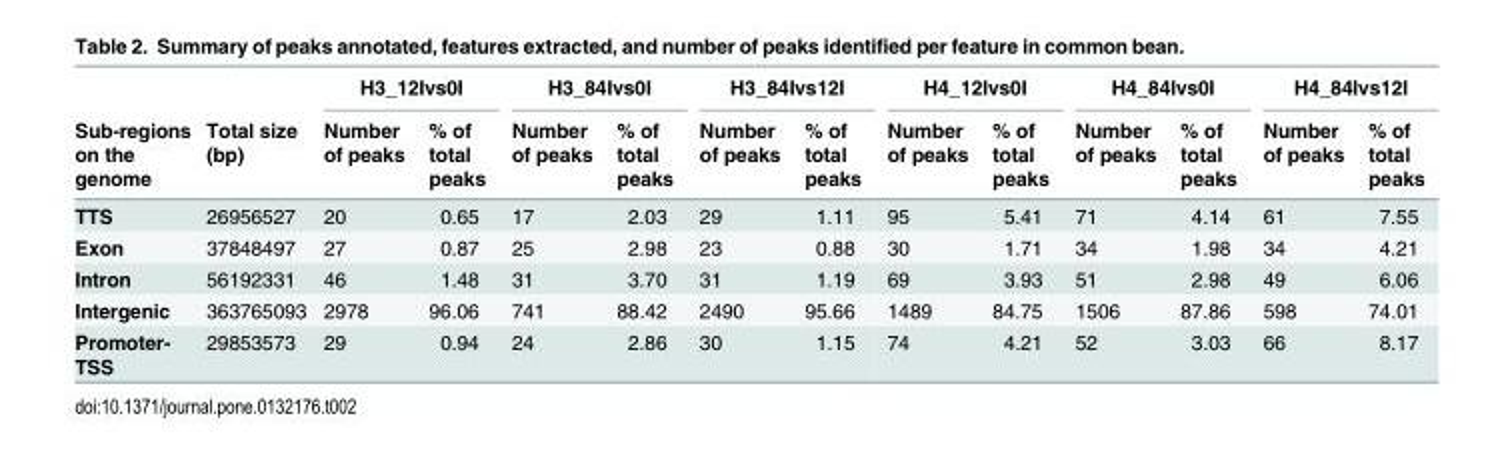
<table><thead><tr><td rowspan="2">Sub-regions on the genome</td><td rowspan="2">Total size (bp)</td><td colspan="2">H3_12Ivs0I</td><td colspan="2">H3_84Ivs0I</td><td colspan="2">H3_84Ivs12I</td><td colspan="2">H4_12Ivs0I</td><td colspan="2">H4_84Ivs0I</td><td colspan="2">H4_84Ivs12I</td></tr><tr><td>Number of peaks</td><td>% of total peaks</td><td>Number of peaks</td><td>% of total peaks</td><td>Number of peaks</td><td>% of total peaks</td><td>Number of peaks</td><td>% of total peaks</td><td>Number of peaks</td><td>% of total peaks</td><td>Number of peaks</td><td>% of total peaks</td></tr></thead><tbody><tr><td>TTS</td><td>26956527</td><td>20</td><td>0.65</td><td>17</td><td>2.03</td><td>29</td><td>1.11</td><td>95</td><td>5.41</td><td>71</td><td>4.14</td><td>61</td><td>7.55</td></tr><tr><td>Exon</td><td>37848497</td><td>27</td><td>0.87</td><td>25</td><td>2.98</td><td>23</td><td>0.88</td><td>30</td><td>1.71</td><td>34</td><td>1.98</td><td>34</td><td>4.21</td></tr><tr><td>Intron</td><td>56192331</td><td>46</td><td>1.48</td><td>31</td><td>3.70</td><td>31</td><td>1.19</td><td>69</td><td>3.93</td><td>51</td><td>2.98</td><td>49</td><td>6.06</td></tr><tr><td>Intergenic</td><td>363765093</td><td>2978</td><td>96.06</td><td>741</td><td>88.42</td><td>2490</td><td>95.66</td><td>1489</td><td>84.75</td><td>1506</td><td>87.86</td><td>598</td><td>74.01</td></tr><tr><td>Promoter- TSS</td><td>29853573</td><td>29</td><td>0.94</td><td>24</td><td>2.86</td><td>30</td><td>1.15</td><td>74</td><td>4.21</td><td>52</td><td>3.03</td><td>66</td><td>8.17</td></tr></tbody></table>